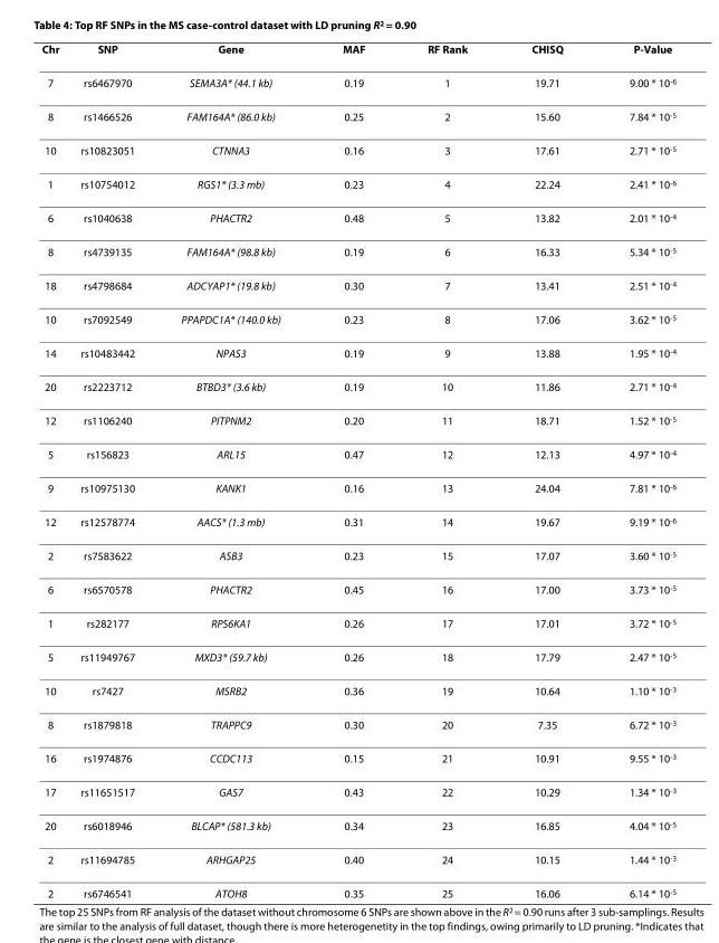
<table><thead><tr><td>Chr</td><td>SNP</td><td>Gene</td><td>MAF</td><td>RF Rank</td><td>CHISQ</td><td>P-Value</td></tr></thead><tbody><tr><td>7</td><td>rs6467970</td><td>SEMA3A* (44.1 kb)</td><td>0.19</td><td>1</td><td>19.71</td><td>9.00 * 10-6</td></tr><tr><td>8</td><td>rs1466526</td><td>FAM164A* (86.0 kb)</td><td>0.25</td><td>2</td><td>15.60</td><td>7.84 * 10-5</td></tr><tr><td>10</td><td>rs10823051</td><td>CTNNA3</td><td>0.16</td><td>3</td><td>17.61</td><td>2.71 * 10-5</td></tr><tr><td>1</td><td>rs10754012</td><td>RGS1* (3.3 mb)</td><td>0.23</td><td>4</td><td>22.24</td><td>2.41 * 10-6</td></tr><tr><td>6</td><td>rs1040638</td><td>PHACTR2</td><td>0.48</td><td>5</td><td>13.82</td><td>2.01 * 10-4</td></tr><tr><td>8</td><td>rs4739135</td><td>FAM164A* (98.8 kb)</td><td>0.19</td><td>6</td><td>16.33</td><td>5.34 * 10-5</td></tr><tr><td>18</td><td>rs4798684</td><td>ADCYAP1* (19.8 kb)</td><td>0.30</td><td>7</td><td>13.41</td><td>2.51 * 10-4</td></tr><tr><td>10</td><td>rs7092549</td><td>PPAPDC1A* (140.0 kb)</td><td>0.23</td><td>8</td><td>17.06</td><td>3.62 * 10-5</td></tr><tr><td>14</td><td>rs10483442</td><td>NPAS3</td><td>0.19</td><td>9</td><td>13.88</td><td>1.95 * 10-4</td></tr><tr><td>20</td><td>rs2223712</td><td>BTBD3* (3.6 kb)</td><td>0.19</td><td>10</td><td>11.86</td><td>2.71 * 10-4</td></tr><tr><td>12</td><td>rs1106240</td><td>PITPNM2</td><td>0.20</td><td>11</td><td>18.71</td><td>1.52 * 10-5</td></tr><tr><td>5</td><td>rs156823</td><td>ARL15</td><td>0.47</td><td>12</td><td>12.13</td><td>4.97 * 10-4</td></tr><tr><td>9</td><td>rs10975130</td><td>KANK1</td><td>0.16</td><td>13</td><td>24.04</td><td>7.81 * 10-6</td></tr><tr><td>12</td><td>rs12578774</td><td>AACS* (1.3 mb)</td><td>0.31</td><td>14</td><td>19.67</td><td>9.19 * 10-6</td></tr><tr><td>2</td><td>rs7583622</td><td>ASB3</td><td>0.23</td><td>15</td><td>17.07</td><td>3.60 * 10-5</td></tr><tr><td>6</td><td>rs6570578</td><td>PHACTR2</td><td>0.45</td><td>16</td><td>17.00</td><td>3.73 * 10-5</td></tr><tr><td>1</td><td>rs282177</td><td>RPS6KA1</td><td>0.26</td><td>17</td><td>17.01</td><td>3.72 * 10-5</td></tr><tr><td>5</td><td>rs11949767</td><td>MXD3* (59.7 kb)</td><td>0.26</td><td>18</td><td>17.79</td><td>2.47 * 10-5</td></tr><tr><td>10</td><td>rs7427</td><td>MSRB2</td><td>0.36</td><td>19</td><td>10.64</td><td>1.10 * 10-3</td></tr><tr><td>8</td><td>rs1879818</td><td>TRAPPC9</td><td>0.30</td><td>20</td><td>7.35</td><td>6.72 * 10-3</td></tr><tr><td>16</td><td>rs1974876</td><td>CCDC113</td><td>0.15</td><td>21</td><td>10.91</td><td>9.55 * 10-3</td></tr><tr><td>17</td><td>rs11651517</td><td>GAS7</td><td>0.43</td><td>22</td><td>10.29</td><td>1.34 * 10-3</td></tr><tr><td>20</td><td>rs6018946</td><td>BLCAP* (581.3 kb)</td><td>0.34</td><td>23</td><td>16.85</td><td>4.04 * 10-5</td></tr><tr><td>2</td><td>rs11694785</td><td>ARHGAP25</td><td>0.40</td><td>24</td><td>10.15</td><td>1.44 * 10-3</td></tr><tr><td>2</td><td>rs6746541</td><td>ATOH8</td><td>0.35</td><td>25</td><td>16.06</td><td>6.14 * 10-5</td></tr></tbody></table>